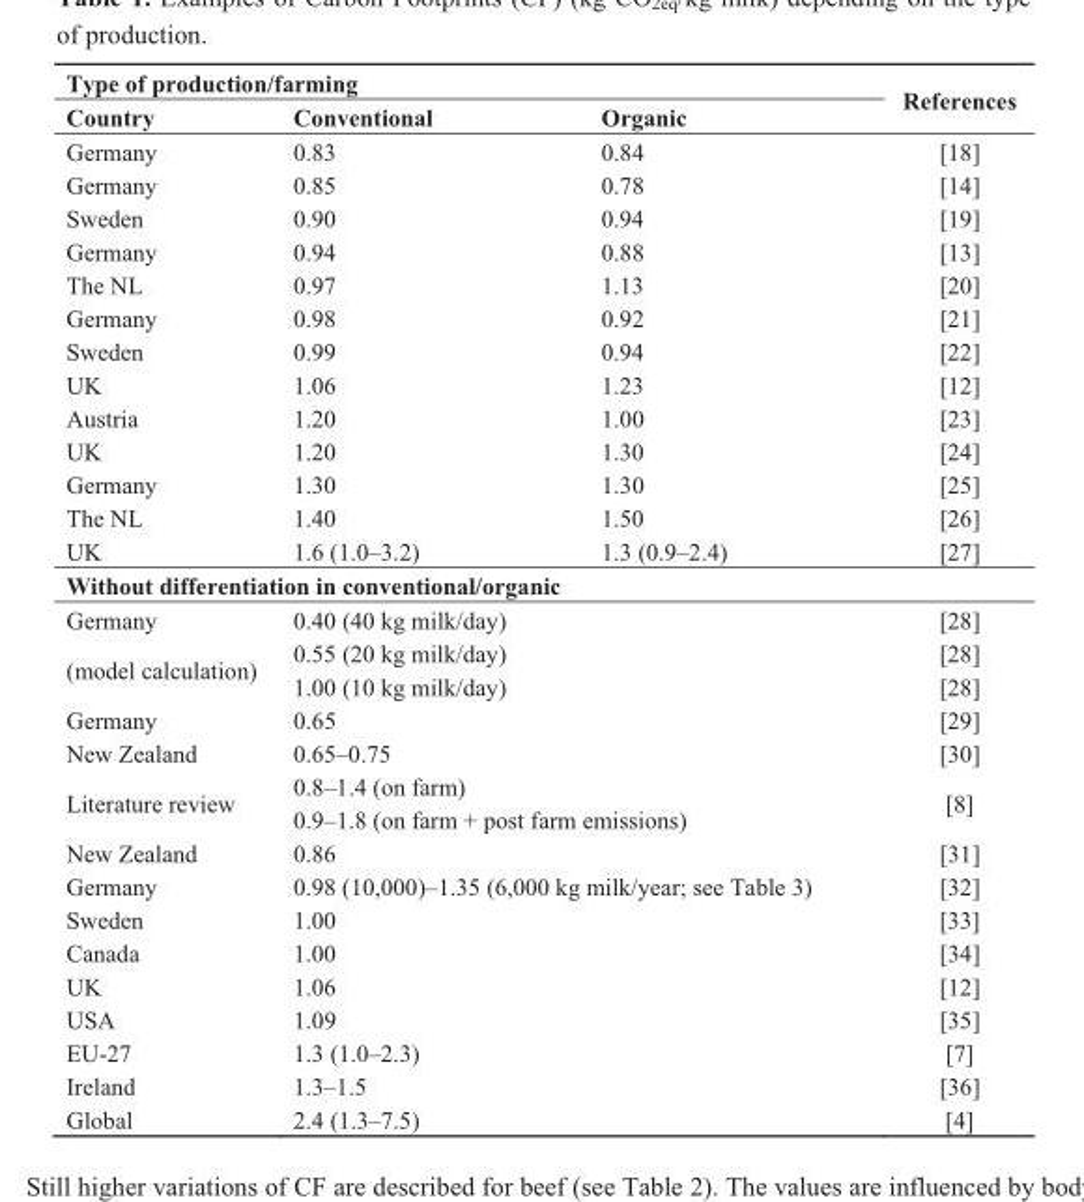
<table><thead><tr><td colspan="3">Type of production/farming</td><td rowspan="2">References</td></tr><tr><td>Country</td><td>Conventional</td><td>Organic</td></tr></thead><tbody><tr><td>Germany</td><td>0.83</td><td>0.84</td><td>[18]</td></tr><tr><td>Germany</td><td>0.85</td><td>0.78</td><td>[14]</td></tr><tr><td>Sweden</td><td>0.90</td><td>0.94</td><td>[19]</td></tr><tr><td>Germany</td><td>0.94</td><td>0.88</td><td>[13]</td></tr><tr><td>The NL</td><td>0.97</td><td>1.13</td><td>[20]</td></tr><tr><td>Germany</td><td>0.98</td><td>0.92</td><td>[21]</td></tr><tr><td>Sweden</td><td>0.99</td><td>0.94</td><td>[22]</td></tr><tr><td>UK</td><td>1.06</td><td>1.23</td><td>[12]</td></tr><tr><td>Austria</td><td>1.20</td><td>1.00</td><td>[23]</td></tr><tr><td>UK</td><td>1.20</td><td>1.30</td><td>[24]</td></tr><tr><td>Germany</td><td>1.30</td><td>1.30</td><td>[25]</td></tr><tr><td>The NL</td><td>1.40</td><td>1.50</td><td>[26]</td></tr><tr><td>UK</td><td>1.6 (1.0–3.2)</td><td>1.3 (0.9–2.4)</td><td>[27]</td></tr><tr><td colspan="4">Without differentiation in conventional/organic</td></tr><tr><td>Germany</td><td colspan="2">0.40 (40 kg milk/day)</td><td>[28]</td></tr><tr><td rowspan="2">(model calculation)</td><td colspan="2">0.55 (20 kg milk/day)</td><td>[28]</td></tr><tr><td colspan="2">1.00 (10 kg milk/day)</td><td>[28]</td></tr><tr><td>Germany</td><td colspan="2">0.65</td><td>[29]</td></tr><tr><td>New Zealand</td><td colspan="2">0.65–0.75</td><td>[30]</td></tr><tr><td rowspan="2">Literature review</td><td colspan="2">0.8–1.4 (on farm)</td><td rowspan="2">[8]</td></tr><tr><td colspan="2">0.9–1.8 (on farm + post farm emissions)</td></tr><tr><td>New Zealand</td><td colspan="2">0.86</td><td>[31]</td></tr><tr><td>Germany</td><td colspan="2">0.98 (10,000)–1.35 (6,000 kg milk/year; see Table 3)</td><td>[32]</td></tr><tr><td>Sweden</td><td colspan="2">1.00</td><td>[33]</td></tr><tr><td>Canada</td><td colspan="2">1.00</td><td>[34]</td></tr><tr><td>UK</td><td colspan="2">1.06</td><td>[12]</td></tr><tr><td>USA</td><td colspan="2">1.09</td><td>[35]</td></tr><tr><td>EU-27</td><td colspan="2">1.3 (1.0–2.3)</td><td>[7]</td></tr><tr><td>Ireland</td><td colspan="2">1.3–1.5</td><td>[36]</td></tr><tr><td>Global</td><td colspan="2">2.4 (1.3–7.5)</td><td>[4]</td></tr></tbody></table>